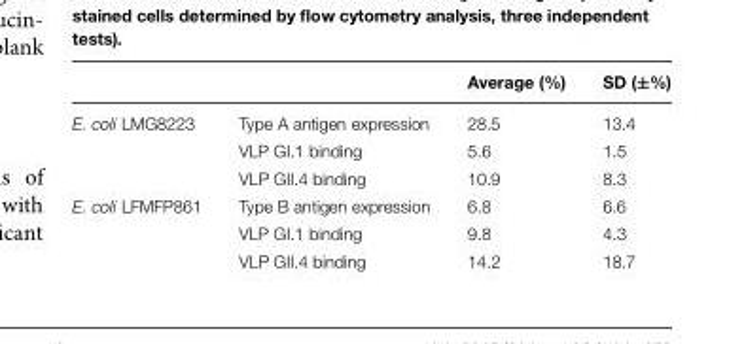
<table><thead><tr><td></td><td></td><td>Average (%)</td><td>SD (±%)</td></tr></thead><tbody><tr><td rowspan="3">E. coli LMG8223</td><td>Type A antigen expression</td><td>28.5</td><td>13.4</td></tr><tr><td>VLP GI.1 binding</td><td>5.6</td><td>1.5</td></tr><tr><td>VLP GII.4 binding</td><td>10.9</td><td>8.3</td></tr><tr><td rowspan="3">E. coli LFMFP861</td><td>Type B antigen expression</td><td>6.8</td><td>6.6</td></tr><tr><td>VLP GI.1 binding</td><td>9.8</td><td>4.3</td></tr><tr><td>VLP GII.4 binding</td><td>14.2</td><td>18.7</td></tr></tbody></table>